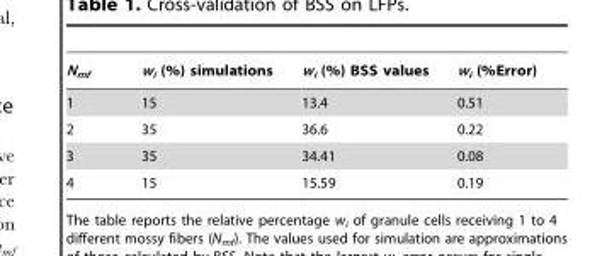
<table><thead><tr><td>N<sub>mf</sub></td><td>w<sub>i</sub> (%) simulations</td><td>w<sub>i</sub> (%) BSS values</td><td>w<sub>i</sub> (%Error)</td></tr></thead><tbody><tr><td>1</td><td>15</td><td>13.4</td><td>0.51</td></tr><tr><td>2</td><td>35</td><td>36.6</td><td>0.22</td></tr><tr><td>3</td><td>35</td><td>34.41</td><td>0.08</td></tr><tr><td>4</td><td>15</td><td>15.59</td><td>0.19</td></tr></tbody></table>